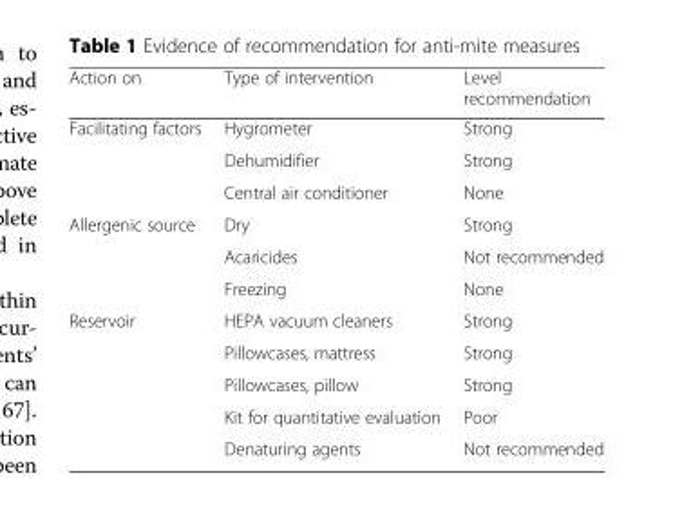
<table><thead><tr><td>Action on</td><td>Type of intervention</td><td>Level recommendation</td></tr></thead><tbody><tr><td rowspan="3">Facilitating factors</td><td>Hygrometer</td><td>Strong</td></tr><tr><td>Dehumidifier</td><td>Strong</td></tr><tr><td>Central air conditioner</td><td>None</td></tr><tr><td rowspan="3">Allergenic source</td><td>Dry</td><td>Strong</td></tr><tr><td>Acaricides</td><td>Not recommended</td></tr><tr><td>Freezing</td><td>None</td></tr><tr><td rowspan="5">Reservoir</td><td>HEPA vacuum cleaners</td><td>Strong</td></tr><tr><td>Pillowcases, mattress</td><td>Strong</td></tr><tr><td>Pillowcases, pillow</td><td>Strong</td></tr><tr><td>Kit for quantitative evaluation</td><td>Poor</td></tr><tr><td>Denaturing agents</td><td>Not recommended</td></tr></tbody></table>